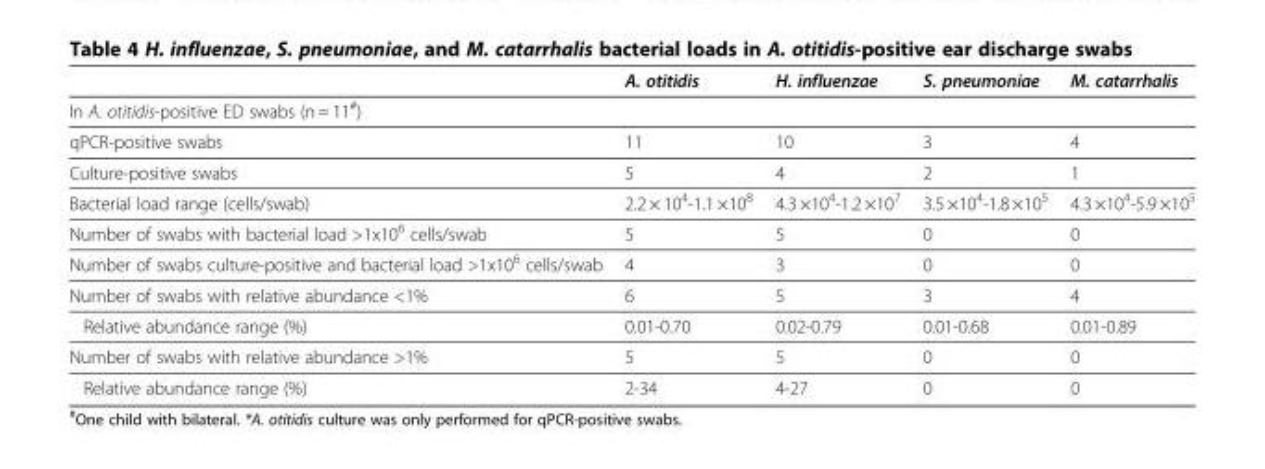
<table><thead><tr><td></td><td>A. otitidis</td><td>H. influenzae</td><td>S. pneumoniae</td><td>M. catarrhalis</td></tr></thead><tbody><tr><td colspan="5">In A. otitidis-positive ED swabs (n = 11<sup>#</sup>)</td></tr><tr><td>qPCR-positive swabs</td><td>11</td><td>10</td><td>3</td><td>4</td></tr><tr><td>Culture-positive swabs</td><td>5</td><td>4</td><td>2</td><td>1</td></tr><tr><td>Bacterial load range (cells/swab)</td><td>2.2 × 10<sup>4</sup>-1.1 ×10<sup>8</sup></td><td>4.3 ×10<sup>4</sup>-1.2 ×10<sup>7</sup></td><td>3.5 ×10<sup>4</sup>-1.8 ×10<sup>5</sup></td><td>4.3 ×10<sup>4</sup>-5.9 ×10<sup>5</sup></td></tr><tr><td>Number of swabs with bacterial load &gt;1x10<sup>6</sup> cells/swab</td><td>5</td><td>5</td><td>0</td><td>0</td></tr><tr><td>Number of swabs culture-positive and bacterial load &gt;1x10<sup>6</sup> cells/swab</td><td>4</td><td>3</td><td>0</td><td>0</td></tr><tr><td>Number of swabs with relative abundance &lt;1%</td><td>6</td><td>5</td><td>3</td><td>4</td></tr><tr><td>Relative abundance range (%)</td><td>0.01-0.70</td><td>0.02-0.79</td><td>0.01-0.68</td><td>0.01-0.89</td></tr><tr><td>Number of swabs with relative abundance &gt;1%</td><td>5</td><td>5</td><td>0</td><td>0</td></tr><tr><td>Relative abundance range (%)</td><td>2-34</td><td>4-27</td><td>0</td><td>0</td></tr></tbody></table>